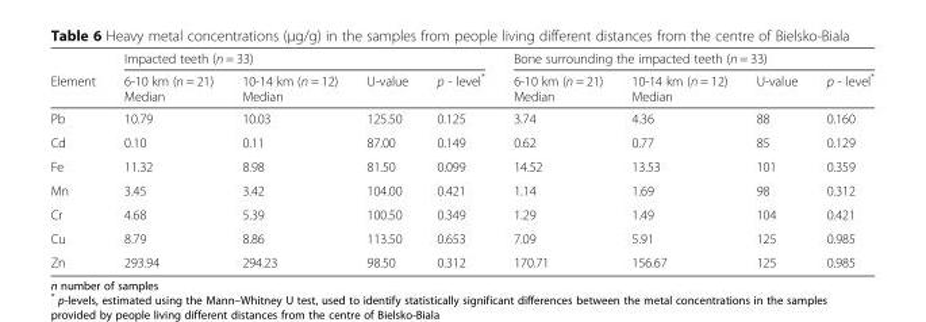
<table><thead><tr><td rowspan="2">Element</td><td colspan="4">Impacted teeth (n = 33)</td><td colspan="4">Bone surrounding the impacted teeth (n = 33)</td></tr><tr><td>6-10 km (n = 21) Median</td><td>10-14 km (n = 12) Median</td><td>U-value</td><td>p - level*</td><td>6-10 km (n = 21) Median</td><td>10-14 km (n = 12) Median</td><td>U-value</td><td>p - level*</td></tr></thead><tbody><tr><td>Pb</td><td>10.79</td><td>10.03</td><td>125.50</td><td>0.125</td><td>3.74</td><td>4.36</td><td>88</td><td>0.160</td></tr><tr><td>Cd</td><td>0.10</td><td>0.11</td><td>87.00</td><td>0.149</td><td>0.62</td><td>0.77</td><td>85</td><td>0.129</td></tr><tr><td>Fe</td><td>11.32</td><td>8.98</td><td>81.50</td><td>0.099</td><td>14.52</td><td>13.53</td><td>101</td><td>0.359</td></tr><tr><td>Mn</td><td>3.45</td><td>3.42</td><td>104.00</td><td>0.421</td><td>1.14</td><td>1.69</td><td>98</td><td>0.312</td></tr><tr><td>Cr</td><td>4.68</td><td>5.39</td><td>100.50</td><td>0.349</td><td>1.29</td><td>1.49</td><td>104</td><td>0.421</td></tr><tr><td>Cu</td><td>8.79</td><td>8.86</td><td>113.50</td><td>0.653</td><td>7.09</td><td>5.91</td><td>125</td><td>0.985</td></tr><tr><td>Zn</td><td>293.94</td><td>294.23</td><td>98.50</td><td>0.312</td><td>170.71</td><td>156.67</td><td>125</td><td>0.985</td></tr></tbody></table>